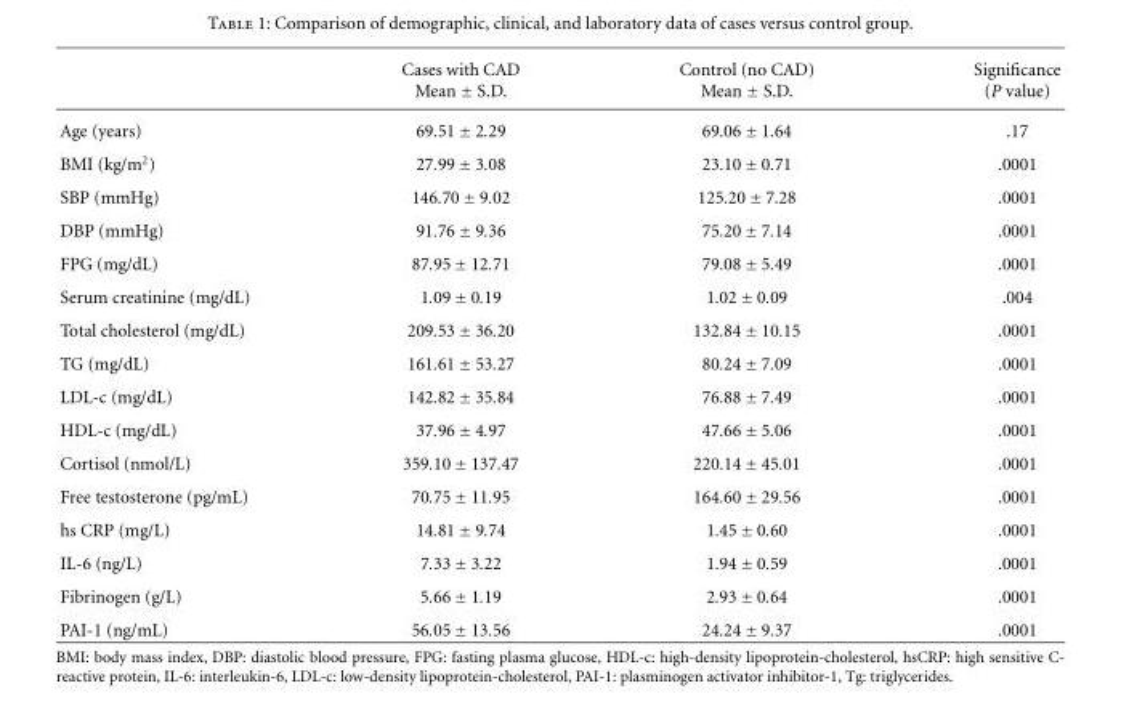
<table><thead><tr><td rowspan="2"></td><td rowspan="2">Cases with CAD Mean ± S.D.</td><td rowspan="2">Control (no CAD) Mean ± S.D.</td><td rowspan="2">Significance (P value)</td></tr><tr></tr></thead><tbody><tr><td>Age (years)</td><td>69.51 ± 2.29</td><td>69.06 ± 1.64</td><td>.17</td></tr><tr><td>BMI (kg/m<sup>2</sup>)</td><td>27.99 ± 3.08</td><td>23.10 ± 0.71</td><td>.0001</td></tr><tr><td>SBP (mmHg)</td><td>146.70 ± 9.02</td><td>125.20 ± 7.28</td><td>.0001</td></tr><tr><td>DBP (mmHg)</td><td>91.76 ± 9.36</td><td>75.20 ± 7.14</td><td>.0001</td></tr><tr><td>FPG (mg/dL)</td><td>87.95 ± 12.71</td><td>79.08 ± 5.49</td><td>.0001</td></tr><tr><td>Serum creatinine (mg/dL)</td><td>1.09 ± 0.19</td><td>1.02 ± 0.09</td><td>.004</td></tr><tr><td>Total cholesterol (mg/dL)</td><td>209.53 ± 36.20</td><td>132.84 ± 10.15</td><td>.0001</td></tr><tr><td>TG (mg/dL)</td><td>161.61 ± 53.27</td><td>80.24 ± 7.09</td><td>.0001</td></tr><tr><td>LDL-c (mg/dL)</td><td>142.82 ± 35.84</td><td>76.88 ± 7.49</td><td>.0001</td></tr><tr><td>HDL-c (mg/dL)</td><td>37.96 ± 4.97</td><td>47.66 ± 5.06</td><td>.0001</td></tr><tr><td>Cortisol (nmol/L)</td><td>359.10 ± 137.47</td><td>220.14 ± 45.01</td><td>.0001</td></tr><tr><td>Free testosterone (pg/mL)</td><td>70.75 ± 11.95</td><td>164.60 ± 29.56</td><td>.0001</td></tr><tr><td>hs CRP (mg/L)</td><td>14.81 ± 9.74</td><td>1.45 ± 0.60</td><td>.0001</td></tr><tr><td>IL-6 (ng/L)</td><td>7.33 ± 3.22</td><td>1.94 ± 0.59</td><td>.0001</td></tr><tr><td>Fibrinogen (g/L)</td><td>5.66 ± 1.19</td><td>2.93 ± 0.64</td><td>.0001</td></tr><tr><td>PAI-1 (ng/mL)</td><td>56.05 ± 13.56</td><td>24.24 ± 9.37</td><td>.0001</td></tr></tbody></table>